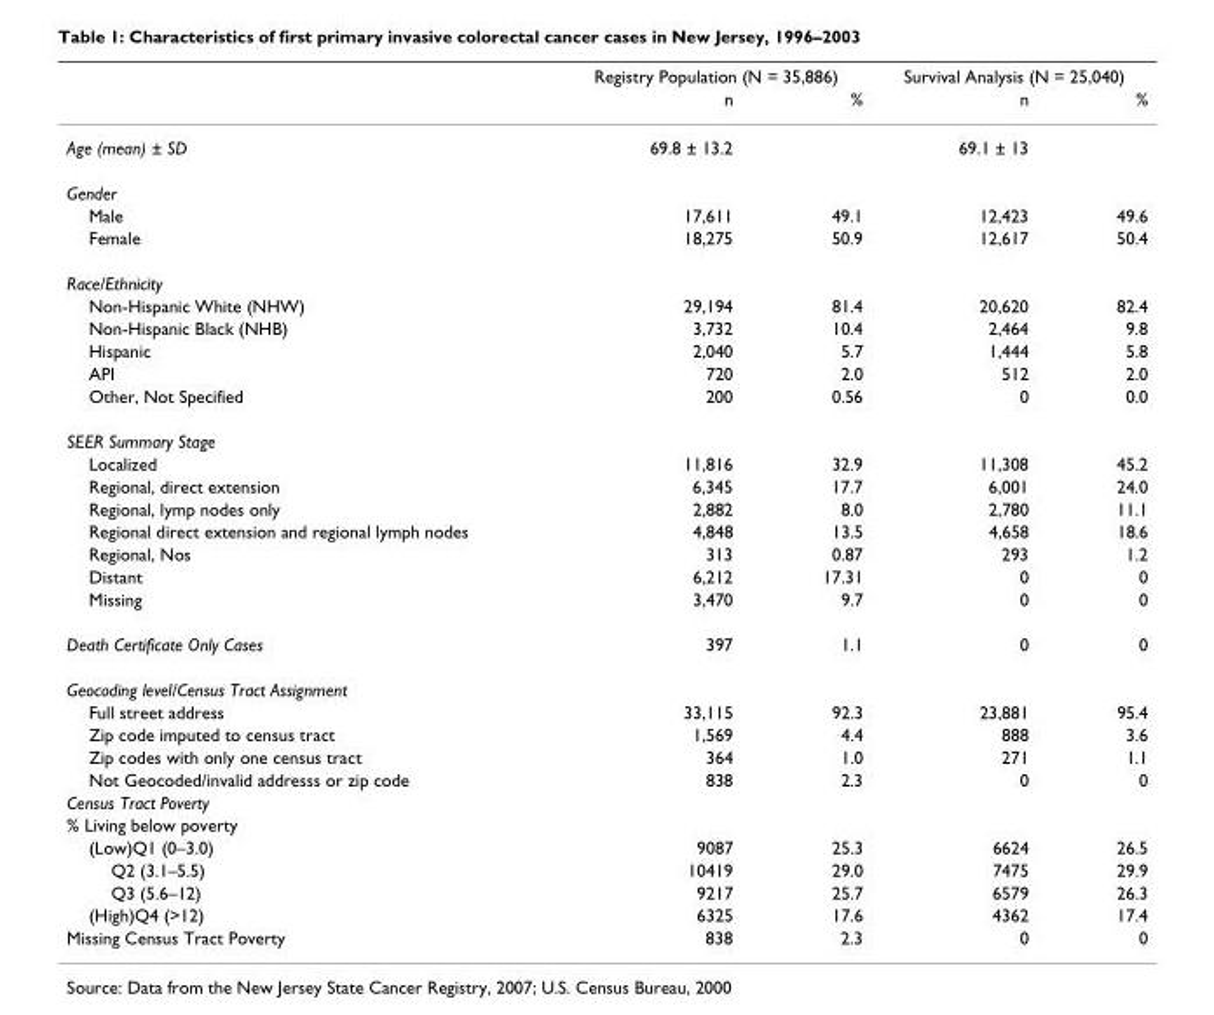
<table><thead><tr><td rowspan="2"></td><td colspan="2">Registry Population (N = 35,886)</td><td colspan="2">Survival Analysis (N = 25,040)</td></tr><tr><td>n</td><td>%</td><td>n</td><td>%</td></tr></thead><tbody><tr><td>Age (mean) ± SD</td><td>69.8 ± 13.2</td><td></td><td>69.1 ± 13</td><td></td></tr><tr><td colspan="5">Gender</td></tr><tr><td>Male</td><td>17,611</td><td>49.1</td><td>12,423</td><td>49.6</td></tr><tr><td>Female</td><td>18,275</td><td>50.9</td><td>12,617</td><td>50.4</td></tr><tr><td colspan="5">Race/Ethnicity</td></tr><tr><td>Non-Hispanic White (NHW)</td><td>29,194</td><td>81.4</td><td>20,620</td><td>82.4</td></tr><tr><td>Non-Hispanic Black (NHB)</td><td>3,732</td><td>10.4</td><td>2,464</td><td>9.8</td></tr><tr><td>Hispanic</td><td>2,040</td><td>5.7</td><td>1,444</td><td>5.8</td></tr><tr><td>API</td><td>720</td><td>2.0</td><td>512</td><td>2.0</td></tr><tr><td>Other, Not Specified</td><td>200</td><td>0.56</td><td>0</td><td>0.0</td></tr><tr><td colspan="5">SEER Summary Stage</td></tr><tr><td>Localized</td><td>11,816</td><td>32.9</td><td>11,308</td><td>45.2</td></tr><tr><td>Regional, direct extension</td><td>6,345</td><td>17.7</td><td>6,001</td><td>24.0</td></tr><tr><td>Regional, lymp nodes only</td><td>2,882</td><td>8.0</td><td>2,780</td><td>11.1</td></tr><tr><td>Regional direct extension and regional lymph nodes</td><td>4,848</td><td>13.5</td><td>4,658</td><td>18.6</td></tr><tr><td>Regional, Nos</td><td>313</td><td>0.87</td><td>293</td><td>1.2</td></tr><tr><td>Distant</td><td>6,212</td><td>17.31</td><td>0</td><td>0</td></tr><tr><td>Missing</td><td>3,470</td><td>9.7</td><td>0</td><td>0</td></tr><tr><td>Death Certificate Only Cases</td><td>397</td><td>1.1</td><td>0</td><td>0</td></tr><tr><td colspan="5">Geocoding level/Census Tract Assignment</td></tr><tr><td>Full street address</td><td>33,115</td><td>92.3</td><td>23,881</td><td>95.4</td></tr><tr><td>Zip code imputed to census tract</td><td>1,569</td><td>4.4</td><td>888</td><td>3.6</td></tr><tr><td>Zip codes with only one census tract</td><td>364</td><td>1.0</td><td>271</td><td>1.1</td></tr><tr><td>Not Geocoded/invalid addresss or zip code</td><td>838</td><td>2.3</td><td>0</td><td>0</td></tr><tr><td colspan="5">Census Tract Poverty</td></tr><tr><td colspan="5">% Living below poverty</td></tr><tr><td>(Low)Q1 (0–3.0)</td><td>9087</td><td>25.3</td><td>6624</td><td>26.5</td></tr><tr><td>Q2 (3.1–5.5)</td><td>10419</td><td>29.0</td><td>7475</td><td>29.9</td></tr><tr><td>Q3 (5.6–12)</td><td>9217</td><td>25.7</td><td>6579</td><td>26.3</td></tr><tr><td>(High)Q4 (&gt;12)</td><td>6325</td><td>17.6</td><td>4362</td><td>17.4</td></tr><tr><td>Missing Census Tract Poverty</td><td>838</td><td>2.3</td><td>0</td><td>0</td></tr></tbody></table>